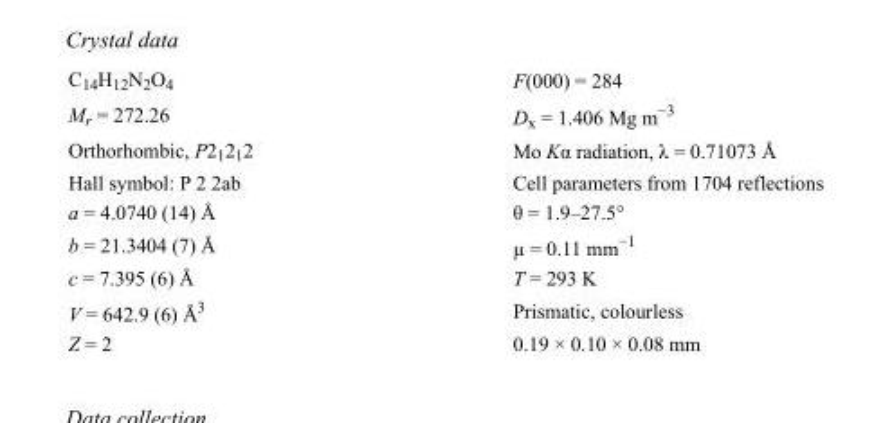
<table><tbody><tr><td>C<sub>14</sub>H<sub>12</sub>N<sub>2</sub>O<sub>4</sub></td><td>F(000) = 284</td></tr><tr><td>M<sub>r</sub> = 272.26</td><td>D<sub>x</sub> = 1.406 Mg m<sup>−3</sup></td></tr><tr><td>Orthorhombic, P2<sub>1</sub>2<sub>1</sub>2</td><td>Mo Kα radiation, λ = 0.71073 Å</td></tr><tr><td>Hall symbol: P 2 2ab</td><td>Cell parameters from 1704 reflections</td></tr><tr><td>a = 4.0740 (14) Å</td><td>θ = 1.9–27.5°</td></tr><tr><td>b = 21.3404 (7) Å</td><td>µ = 0.11 mm<sup>−1</sup></td></tr><tr><td>c = 7.395 (6) Å</td><td>T = 293 K</td></tr><tr><td>V = 642.9 (6) Å<sup>3</sup></td><td>Prismatic, colourless</td></tr><tr><td>Z = 2</td><td>0.19 × 0.10 × 0.08 mm</td></tr></tbody></table>